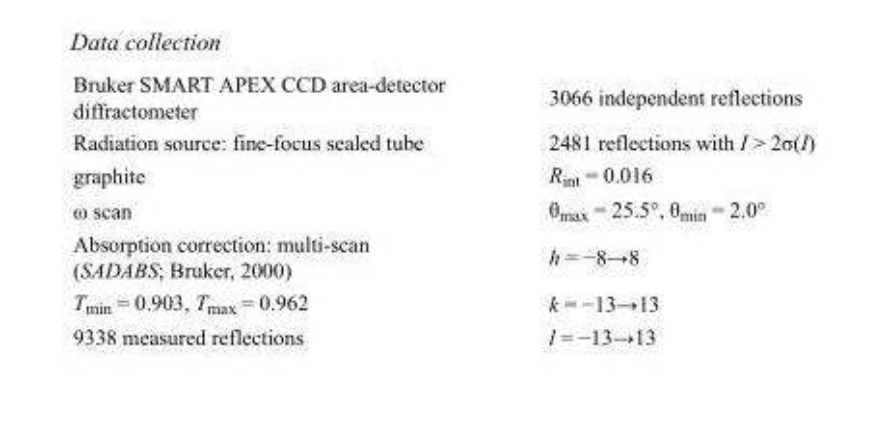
<table><tbody><tr><td>Bruker SMART APEX CCD area-detector diffractometer</td><td>3066 independent reflections</td></tr><tr><td>Radiation source: fine-focus sealed tube</td><td>2481 reflections with I &gt; 2σ(I)</td></tr><tr><td>graphite</td><td>R<sub>int</sub> = 0.016</td></tr><tr><td>ω scan</td><td>θ<sub>max</sub> = 25.5°, θ<sub>min</sub> = 2.0°</td></tr><tr><td>Absorption correction: multi-scan (SADABS; Bruker, 2000)</td><td>h = −8→8</td></tr><tr><td>T<sub>min</sub> = 0.903, T<sub>max</sub> = 0.962</td><td>k = −13→13</td></tr><tr><td>9338 measured reflections</td><td>l = −13→13</td></tr></tbody></table>